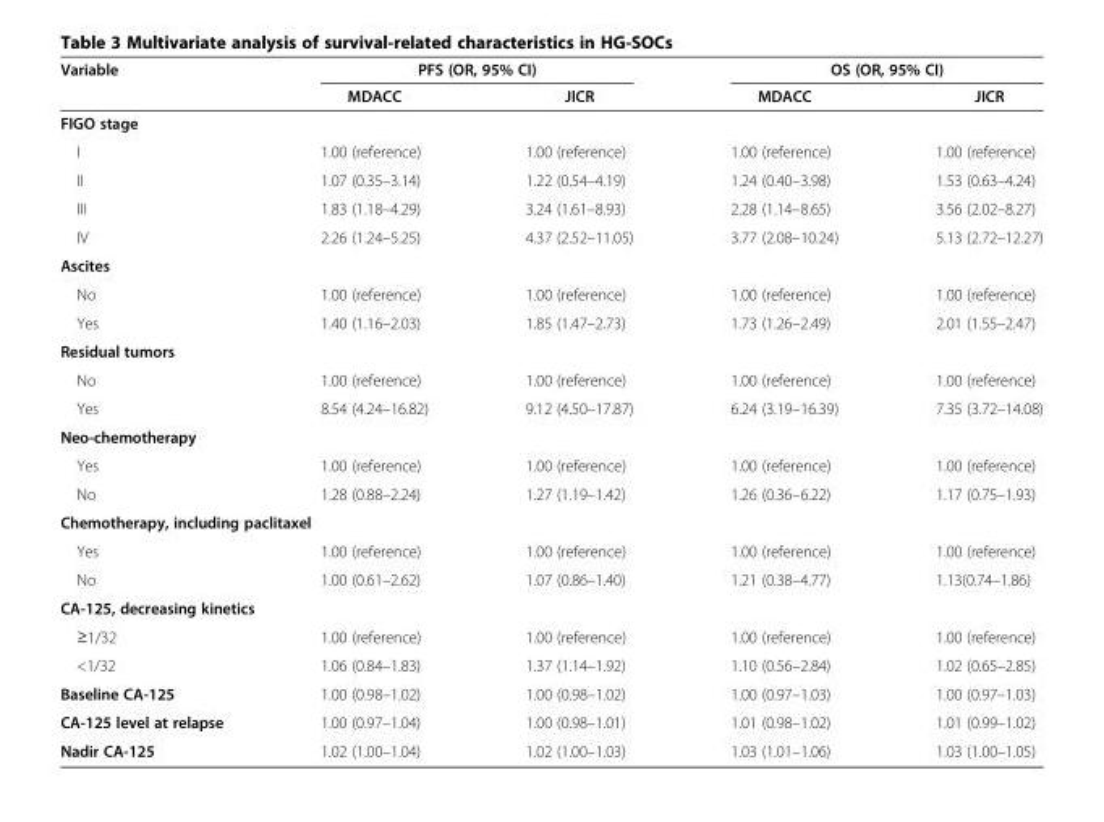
<table><thead><tr><td rowspan="2">Variable</td><td colspan="2">PFS (OR, 95% CI)</td><td colspan="2">OS (OR, 95% CI)</td></tr><tr><td>MDACC</td><td>JICR</td><td>MDACC</td><td>JICR</td></tr></thead><tbody><tr><td colspan="5">FIGO stage</td></tr><tr><td>I</td><td>1.00 (reference)</td><td>1.00 (reference)</td><td>1.00 (reference)</td><td>1.00 (reference)</td></tr><tr><td>II</td><td>1.07 (0.35–3.14)</td><td>1.22 (0.54–4.19)</td><td>1.24 (0.40–3.98)</td><td>1.53 (0.63–4.24)</td></tr><tr><td>III</td><td>1.83 (1.18–4.29)</td><td>3.24 (1.61–8.93)</td><td>2.28 (1.14–8.65)</td><td>3.56 (2.02–8.27)</td></tr><tr><td>IV</td><td>2.26 (1.24–5.25)</td><td>4.37 (2.52–11.05)</td><td>3.77 (2.08–10.24)</td><td>5.13 (2.72–12.27)</td></tr><tr><td colspan="5">Ascites</td></tr><tr><td>No</td><td>1.00 (reference)</td><td>1.00 (reference)</td><td>1.00 (reference)</td><td>1.00 (reference)</td></tr><tr><td>Yes</td><td>1.40 (1.16–2.03)</td><td>1.85 (1.47–2.73)</td><td>1.73 (1.26–2.49)</td><td>2.01 (1.55–2.47)</td></tr><tr><td colspan="5">Residual tumors</td></tr><tr><td>No</td><td>1.00 (reference)</td><td>1.00 (reference)</td><td>1.00 (reference)</td><td>1.00 (reference)</td></tr><tr><td>Yes</td><td>8.54 (4.24–16.82)</td><td>9.12 (4.50–17.87)</td><td>6.24 (3.19–16.39)</td><td>7.35 (3.72–14.08)</td></tr><tr><td colspan="5">Neo-chemotherapy</td></tr><tr><td>Yes</td><td>1.00 (reference)</td><td>1.00 (reference)</td><td>1.00 (reference)</td><td>1.00 (reference)</td></tr><tr><td>No</td><td>1.28 (0.88–2.24)</td><td>1.27 (1.19–1.42)</td><td>1.26 (0.36–6.22)</td><td>1.17 (0.75–1.93)</td></tr><tr><td colspan="5">Chemotherapy, including paclitaxel</td></tr><tr><td>Yes</td><td>1.00 (reference)</td><td>1.00 (reference)</td><td>1.00 (reference)</td><td>1.00 (reference)</td></tr><tr><td>No</td><td>1.00 (0.61–2.62)</td><td>1.07 (0.86–1.40)</td><td>1.21 (0.38–4.77)</td><td>1.13(0.74–1.86)</td></tr><tr><td colspan="5">CA-125, decreasing kinetics</td></tr><tr><td>≥1/32</td><td>1.00 (reference)</td><td>1.00 (reference)</td><td>1.00 (reference)</td><td>1.00 (reference)</td></tr><tr><td>&lt;1/32</td><td>1.06 (0.84–1.83)</td><td>1.37 (1.14–1.92)</td><td>1.10 (0.56–2.84)</td><td>1.02 (0.65–2.85)</td></tr><tr><td>Baseline CA-125</td><td>1.00 (0.98–1.02)</td><td>1.00 (0.98–1.02)</td><td>1.00 (0.97–1.03)</td><td>1.00 (0.97–1.03)</td></tr><tr><td>CA-125 level at relapse</td><td>1.00 (0.97–1.04)</td><td>1.00 (0.98–1.01)</td><td>1.01 (0.98–1.02)</td><td>1.01 (0.99–1.02)</td></tr><tr><td>Nadir CA-125</td><td>1.02 (1.00–1.04)</td><td>1.02 (1.00–1.03)</td><td>1.03 (1.01–1.06)</td><td>1.03 (1.00–1.05)</td></tr></tbody></table>